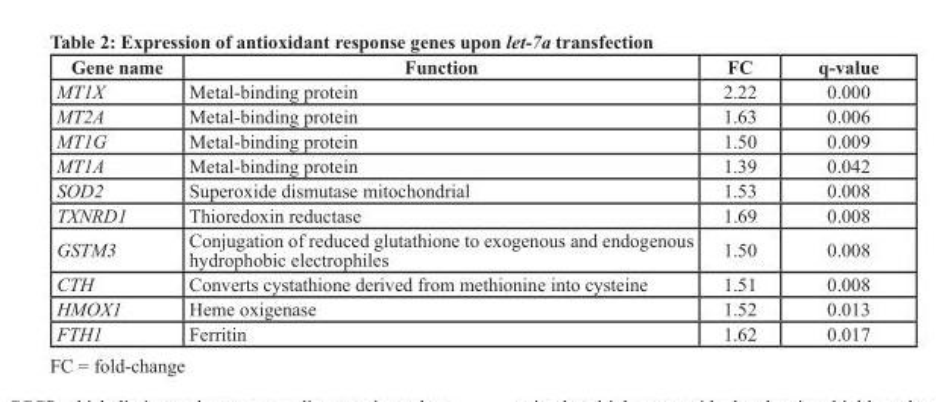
<table><thead><tr><td>Gene name</td><td>Function</td><td>FC</td><td>q-value</td></tr></thead><tbody><tr><td>MT1X</td><td>Metal-binding protein</td><td>2.22</td><td>0.000</td></tr><tr><td>MT2A</td><td>Metal-binding protein</td><td>1.63</td><td>0.006</td></tr><tr><td>MT1G</td><td>Metal-binding protein</td><td>1.50</td><td>0.009</td></tr><tr><td>MT1A</td><td>Metal-binding protein</td><td>1.39</td><td>0.042</td></tr><tr><td>SOD2</td><td>Superoxide dismutase mitochondrial</td><td>1.53</td><td>0.008</td></tr><tr><td>TXNRD1</td><td>Thioredoxin reductase</td><td>1.69</td><td>0.008</td></tr><tr><td>GSTM3</td><td>Conjugation of reduced glutathione to exogenous and endogenous hydrophobic electrophiles</td><td>1.50</td><td>0.008</td></tr><tr><td>CTH</td><td>Converts cystathione derived from methionine into cysteine</td><td>1.51</td><td>0.008</td></tr><tr><td>HMOX1</td><td>Heme oxigenase</td><td>1.52</td><td>0.013</td></tr><tr><td>FTH1</td><td>Ferritin</td><td>1.62</td><td>0.017</td></tr></tbody></table>